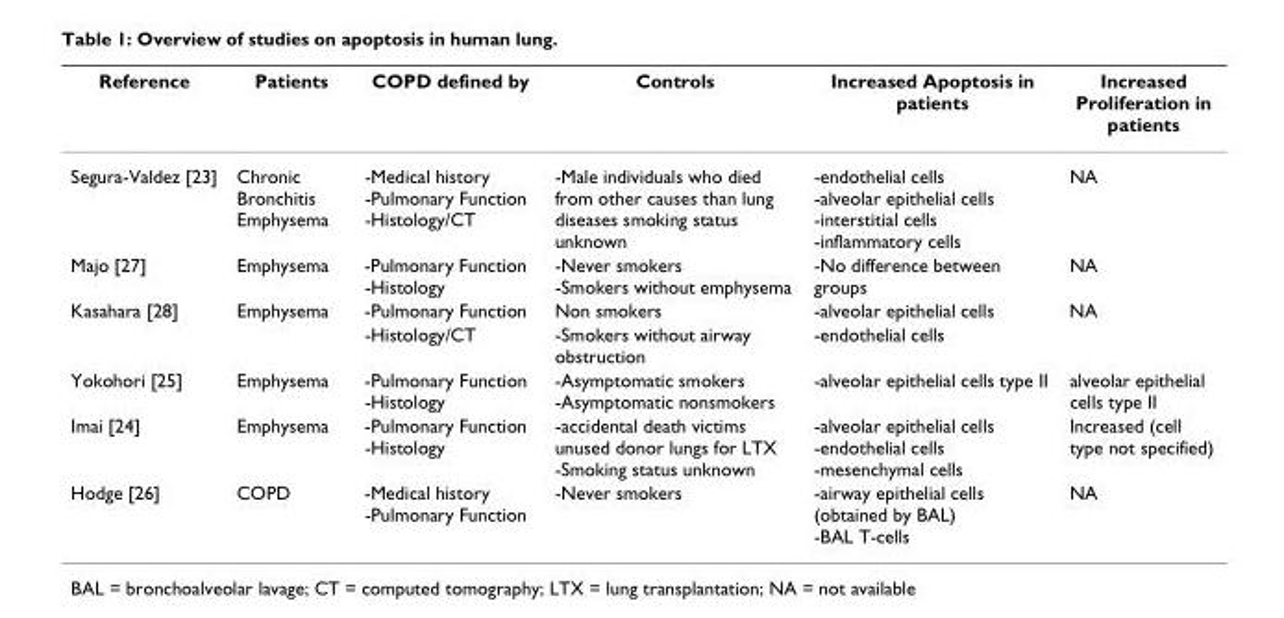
<table><thead><tr><td>Reference</td><td>Patients</td><td>COPD defined by</td><td>Controls</td><td>Increased Apoptosis in patients</td><td>Increased Proliferation in patients</td></tr></thead><tbody><tr><td>Segura-Valdez [23]</td><td>Chronic Bronchitis Emphysema</td><td>-Medical history -Pulmonary Function -Histology/CT</td><td>-Male individuals who died from other causes than lung diseases smoking status unknown</td><td>-endothelial cells -alveolar epithelial cells -interstitial cells -inflammatory cells</td><td>NA</td></tr><tr><td>Majo [27]</td><td>Emphysema</td><td>-Pulmonary Function -Histology</td><td>-Never smokers -Smokers without emphysema</td><td>-No difference between groups</td><td>NA</td></tr><tr><td rowspan="2">Kasahara [28]</td><td>Emphysema</td><td>-Pulmonary Function</td><td>Non smokers</td><td>-alveolar epithelial cells</td><td>NA</td></tr><tr><td></td><td>-Histology/CT</td><td>-Smokers without airway obstruction</td><td>-endothelial cells</td><td></td></tr><tr><td>Yokohori [25]</td><td>Emphysema</td><td>-Pulmonary Function -Histology</td><td>-Asymptomatic smokers -Asymptomatic nonsmokers</td><td>-alveolar epithelial cells type II</td><td>alveolar epithelial cells type II</td></tr><tr><td>Imai [24]</td><td>Emphysema</td><td>-Pulmonary Function -Histology</td><td>-accidental death victims unused donor lungs for LTX -Smoking status unknown</td><td>-alveolar epithelial cells -endothelial cells -mesenchymal cells</td><td>Increased (cell type not specified)</td></tr><tr><td>Hodge [26]</td><td>COPD</td><td>-Medical history -Pulmonary Function</td><td>-Never smokers</td><td>-airway epithelial cells (obtained by BAL) -BAL T-cells</td><td>NA</td></tr></tbody></table>